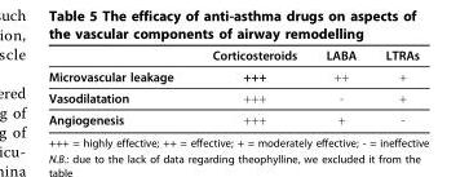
<table><thead><tr><td></td><td>Corticosteroids</td><td>LABA</td><td>LTRAs</td></tr></thead><tbody><tr><td>Microvascular leakage</td><td>+++</td><td>++</td><td>+</td></tr><tr><td>Vasodilatation</td><td>+++</td><td>-</td><td>+</td></tr><tr><td>Angiogenesis</td><td>+++</td><td>+</td><td>-</td></tr></tbody></table>